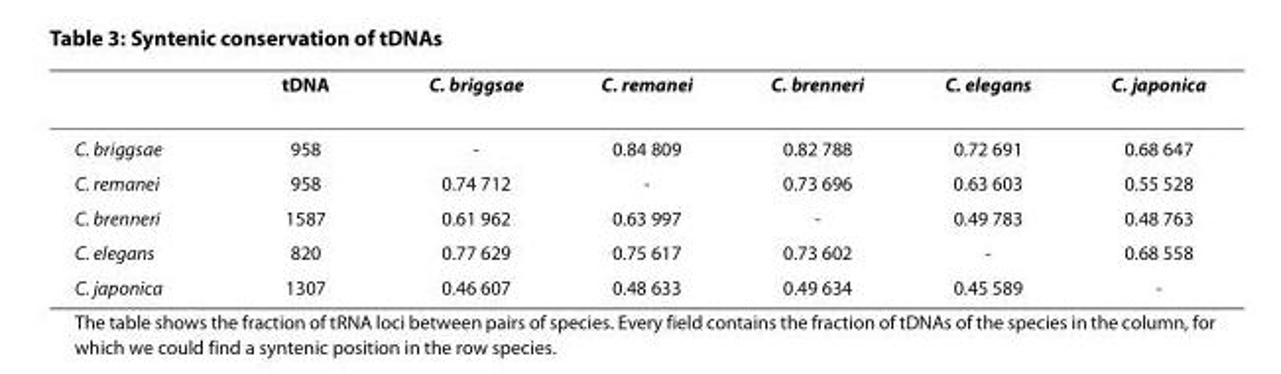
<table><thead><tr><td></td><td>tDNA</td><td>C. briggsae</td><td>C. remanei</td><td>C. brenneri</td><td>C. elegans</td><td>C. japonica</td></tr></thead><tbody><tr><td>C. briggsae</td><td>958</td><td>-</td><td>0.84 809</td><td>0.82 788</td><td>0.72 691</td><td>0.68 647</td></tr><tr><td>C. remanei</td><td>958</td><td>0.74 712</td><td>-</td><td>0.73 696</td><td>0.63 603</td><td>0.55 528</td></tr><tr><td>C. brenneri</td><td>1587</td><td>0.61 962</td><td>0.63 997</td><td>-</td><td>0.49 783</td><td>0.48 763</td></tr><tr><td>C. elegans</td><td>820</td><td>0.77 629</td><td>0.75 617</td><td>0.73 602</td><td>-</td><td>0.68 558</td></tr><tr><td>C. japonica</td><td>1307</td><td>0.46 607</td><td>0.48 633</td><td>0.49 634</td><td>0.45 589</td><td>-</td></tr></tbody></table>